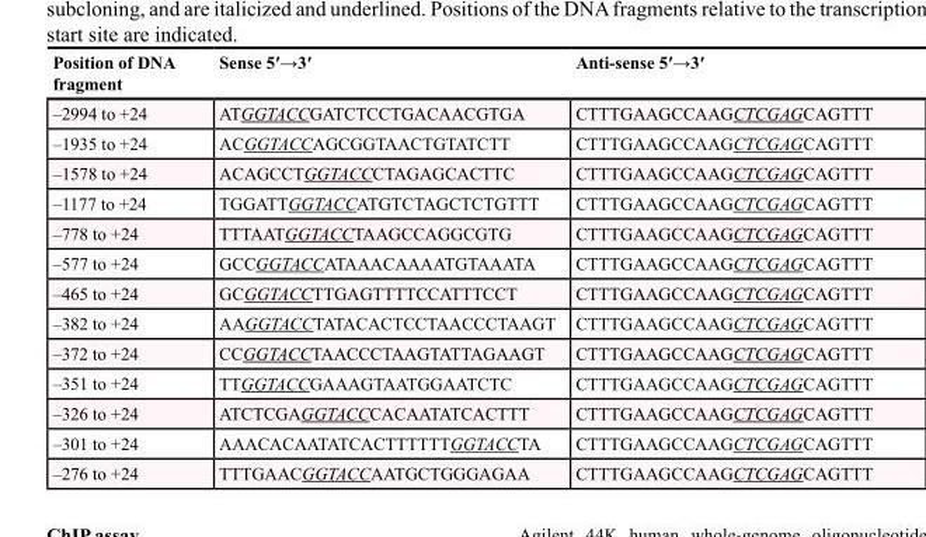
<table><thead><tr><td>Position of DNA fragment</td><td>Sense 5′→3′</td><td>Anti-sense 5′→3′</td></tr></thead><tbody><tr><td>–2994 to +24</td><td>ATGGTACCGATCTCCTGACAACGTGA</td><td>CTTTGAAGCCAAGCTCGAGCAGTTT</td></tr><tr><td>–1935 to +24</td><td>ACGGTACCAGCGGTAACTGTATCTT</td><td>CTTTGAAGCCAAGCTCGAGCAGTTT</td></tr><tr><td>–1578 to +24</td><td>ACAGCCTGGTACCCTAGAGCACTTC</td><td>CTTTGAAGCCAAGCTCGAGCAGTTT</td></tr><tr><td>–1177 to +24</td><td>TGGATTGGTACCATGTCTAGCTCTGTTT</td><td>CTTTGAAGCCAAGCTCGAGCAGTTT</td></tr><tr><td>–778 to +24</td><td>TTTAATGGTACCTAAGCCAGGCGTG</td><td>CTTTGAAGCCAAGCTCGAGCAGTTT</td></tr><tr><td>–577 to +24</td><td>GCCGGTACCATAAACAAAATGTAAATA</td><td>CTTTGAAGCCAAGCTCGAGCAGTTT</td></tr><tr><td>–465 to +24</td><td>GCGGTACCTTGAGTTTTCCATTTCCT</td><td>CTTTGAAGCCAAGCTCGAGCAGTTT</td></tr><tr><td>–382 to +24</td><td>AAGGTACCTATACACTCCTAACCCTAAGT</td><td>CTTTGAAGCCAAGCTCGAGCAGTTT</td></tr><tr><td>–372 to +24</td><td>CCGGTACCTAACCCTAAGTATTAGAAGT</td><td>CTTTGAAGCCAAGCTCGAGCAGTTT</td></tr><tr><td>–351 to +24</td><td>TTGGTACCGAAAGTAATGGAATCTC</td><td>CTTTGAAGCCAAGCTCGAGCAGTTT</td></tr><tr><td>–326 to +24</td><td>ATCTCGAGGTACCCACAATATCACTTT</td><td>CTTTGAAGCCAAGCTCGAGCAGTTT</td></tr><tr><td>–301 to +24</td><td>AAACACAATATCACTTTTTTGGTACCTA</td><td>CTTTGAAGCCAAGCTCGAGCAGTTT</td></tr><tr><td>–276 to +24</td><td>TTTGAACGGTACCAATGCTGGGAGAA</td><td>CTTTGAAGCCAAGCTCGAGCAGTTT</td></tr></tbody></table>